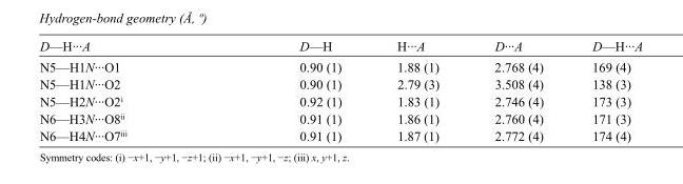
<table><tbody><tr><td>D—H···A</td><td>D—H</td><td>H···A</td><td>D···A</td><td>D—H···A</td></tr><tr><td>N5—H1N···O1</td><td>0.90 (1)</td><td>1.88 (1)</td><td>2.768 (4)</td><td>169 (4)</td></tr><tr><td>N5—H1N···O2</td><td>0.90 (1)</td><td>2.79 (3)</td><td>3.508 (4)</td><td>138 (3)</td></tr><tr><td>N5—H2N···O2<sup>i</sup></td><td>0.92 (1)</td><td>1.83 (1)</td><td>2.746 (4)</td><td>173 (3)</td></tr><tr><td>N6—H3N···O8<sup>ii</sup></td><td>0.91 (1)</td><td>1.86 (1)</td><td>2.760 (4)</td><td>171 (3)</td></tr><tr><td>N6—H4N···O7<sup>iii</sup></td><td>0.91 (1)</td><td>1.87 (1)</td><td>2.772 (4)</td><td>174 (4)</td></tr></tbody></table>